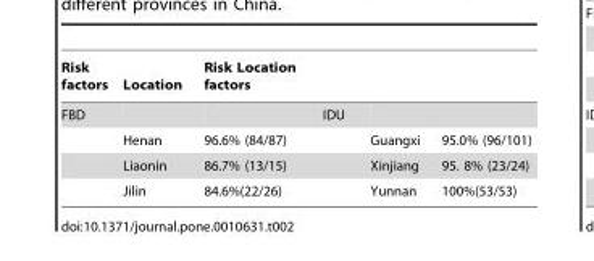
<table><thead><tr><td rowspan="2">Risk factors FBD</td><td rowspan="2">Location</td><td colspan="4">Risk Location factors</td></tr><tr><td></td><td>IDU</td><td></td><td></td></tr></thead><tbody><tr><td></td><td>Henan</td><td>96.6% (84/87)</td><td></td><td>Guangxi</td><td>95.0% (96/101)</td></tr><tr><td></td><td>Liaonin</td><td>86.7% (13/15)</td><td></td><td>Xinjiang</td><td>95. 8% (23/24)</td></tr><tr><td></td><td>Jilin</td><td>84.6%(22/26)</td><td></td><td>Yunnan</td><td>100%(53/53)</td></tr></tbody></table>